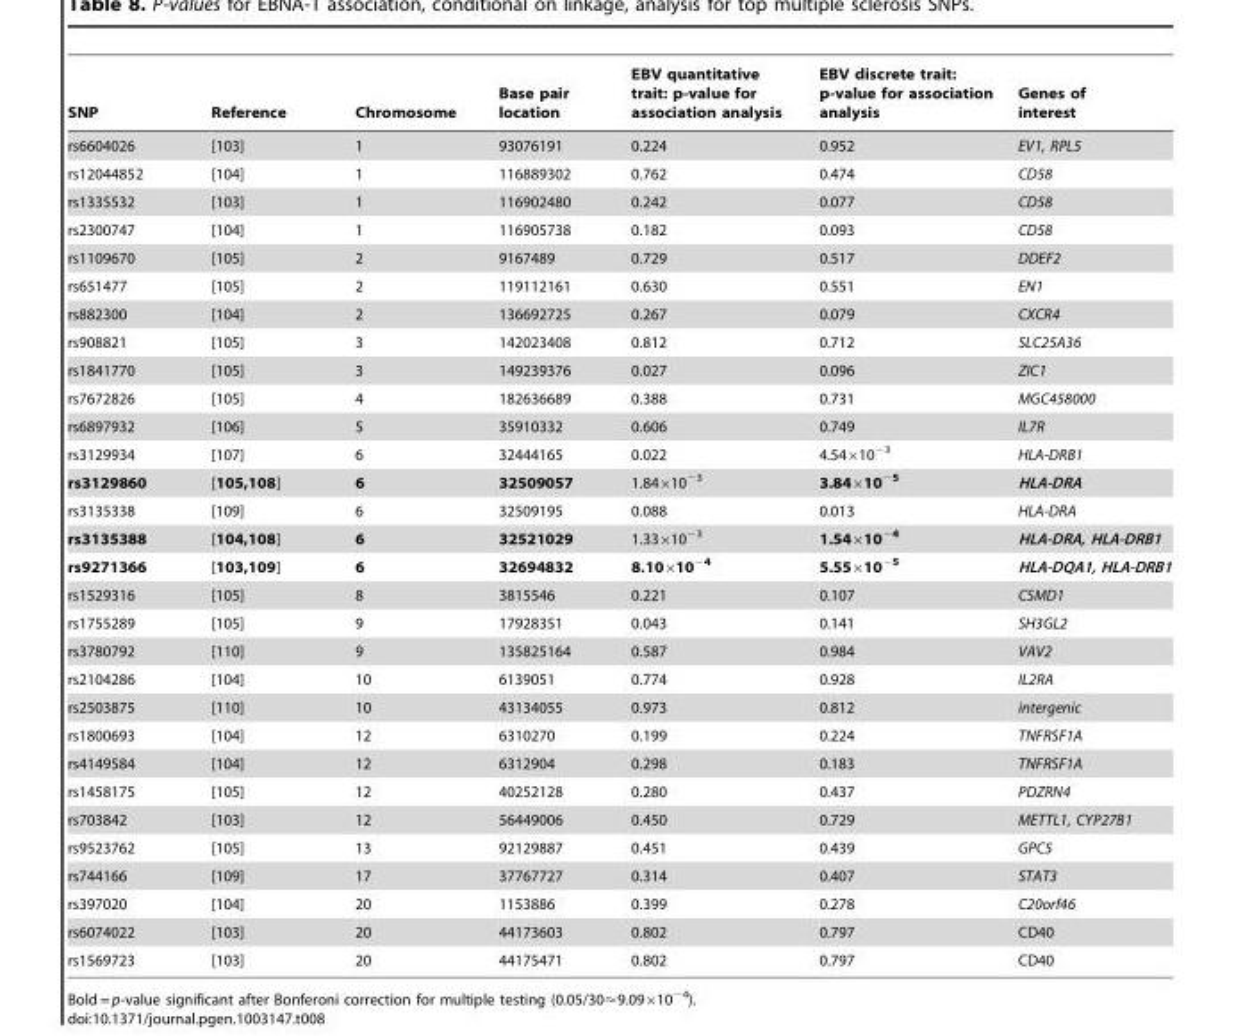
<table><thead><tr><td>SNP</td><td>Reference</td><td>Chromosome</td><td>Base pair location</td><td>EBV quantitative trait: p-value for association analysis</td><td>EBV discrete trait: p-value for association analysis</td><td>Genes of interest</td></tr></thead><tbody><tr><td>rs6604026</td><td>[103]</td><td>1</td><td>93076191</td><td>0.224</td><td>0.952</td><td>EV1, RPL5</td></tr><tr><td>rs12044852</td><td>[104]</td><td>1</td><td>116889302</td><td>0.762</td><td>0.474</td><td>CD58</td></tr><tr><td>rs1335532</td><td>[103]</td><td>1</td><td>116902480</td><td>0.242</td><td>0.077</td><td>CD58</td></tr><tr><td>rs2300747</td><td>[104]</td><td>1</td><td>116905738</td><td>0.182</td><td>0.093</td><td>CD58</td></tr><tr><td>rs1109670</td><td>[105]</td><td>2</td><td>9167489</td><td>0.729</td><td>0.517</td><td>DDEF2</td></tr><tr><td>rs651477</td><td>[105]</td><td>2</td><td>119112161</td><td>0.630</td><td>0.551</td><td>EN1</td></tr><tr><td>rs882300</td><td>[104]</td><td>2</td><td>136692725</td><td>0.267</td><td>0.079</td><td>CXCR4</td></tr><tr><td>rs908821</td><td>[105]</td><td>3</td><td>142023408</td><td>0.812</td><td>0.712</td><td>SLC25A36</td></tr><tr><td>rs1841770</td><td>[105]</td><td>3</td><td>149239376</td><td>0.027</td><td>0.096</td><td>ZIC1</td></tr><tr><td>rs7672826</td><td>[105]</td><td>4</td><td>182636689</td><td>0.388</td><td>0.731</td><td>MGC458000</td></tr><tr><td>rs6897932</td><td>[106]</td><td>5</td><td>35910332</td><td>0.606</td><td>0.749</td><td>IL7R</td></tr><tr><td>rs3129934</td><td>[107]</td><td>6</td><td>32444165</td><td>0.022</td><td>4.54×10<sup>−3</sup></td><td>HLA-DRB1</td></tr><tr><td>rs3129860</td><td>[105,108]</td><td>6</td><td>32509057</td><td>1.84×10<sup>−3</sup></td><td>3.84×10<sup>−5</sup></td><td>HLA-DRA</td></tr><tr><td>rs3135338</td><td>[109]</td><td>6</td><td>32509195</td><td>0.088</td><td>0.013</td><td>HLA-DRA</td></tr><tr><td>rs3135388</td><td>[104,108]</td><td>6</td><td>32521029</td><td>1.33×10<sup>−3</sup></td><td>1.54×10<sup>−4</sup></td><td>HLA-DRA, HLA-DRB1</td></tr><tr><td>rs9271366</td><td>[103,109]</td><td>6</td><td>32694832</td><td>8.10×10<sup>−4</sup></td><td>5.55×10<sup>−5</sup></td><td>HLA-DQA1, HLA-DRB1</td></tr><tr><td>rs1529316</td><td>[105]</td><td>8</td><td>3815546</td><td>0.221</td><td>0.107</td><td>CSMD1</td></tr><tr><td>rs1755289</td><td>[105]</td><td>9</td><td>17928351</td><td>0.043</td><td>0.141</td><td>SH3GL2</td></tr><tr><td>rs3780792</td><td>[110]</td><td>9</td><td>135825164</td><td>0.587</td><td>0.984</td><td>VAV2</td></tr><tr><td>rs2104286</td><td>[104]</td><td>10</td><td>6139051</td><td>0.774</td><td>0.928</td><td>IL2RA</td></tr><tr><td>rs2503875</td><td>[110]</td><td>10</td><td>43134055</td><td>0.973</td><td>0.812</td><td>intergenic</td></tr><tr><td>rs1800693</td><td>[104]</td><td>12</td><td>6310270</td><td>0.199</td><td>0.224</td><td>TNFRSF1A</td></tr><tr><td>rs4149584</td><td>[104]</td><td>12</td><td>6312904</td><td>0.298</td><td>0.183</td><td>TNFRSF1A</td></tr><tr><td>rs1458175</td><td>[105]</td><td>12</td><td>40252128</td><td>0.280</td><td>0.437</td><td>PDZRN4</td></tr><tr><td>rs703842</td><td>[103]</td><td>12</td><td>56449006</td><td>0.450</td><td>0.729</td><td>METTL1, CYP27B1</td></tr><tr><td>rs9523762</td><td>[105]</td><td>13</td><td>92129887</td><td>0.451</td><td>0.439</td><td>GPC5</td></tr><tr><td>rs744166</td><td>[109]</td><td>17</td><td>37767727</td><td>0.314</td><td>0.407</td><td>STAT3</td></tr><tr><td>rs397020</td><td>[104]</td><td>20</td><td>1153886</td><td>0.399</td><td>0.278</td><td>C20orf46</td></tr><tr><td>rs6074022</td><td>[103]</td><td>20</td><td>44173603</td><td>0.802</td><td>0.797</td><td>CD40</td></tr><tr><td>rs1569723</td><td>[103]</td><td>20</td><td>44175471</td><td>0.802</td><td>0.797</td><td>CD40</td></tr></tbody></table>